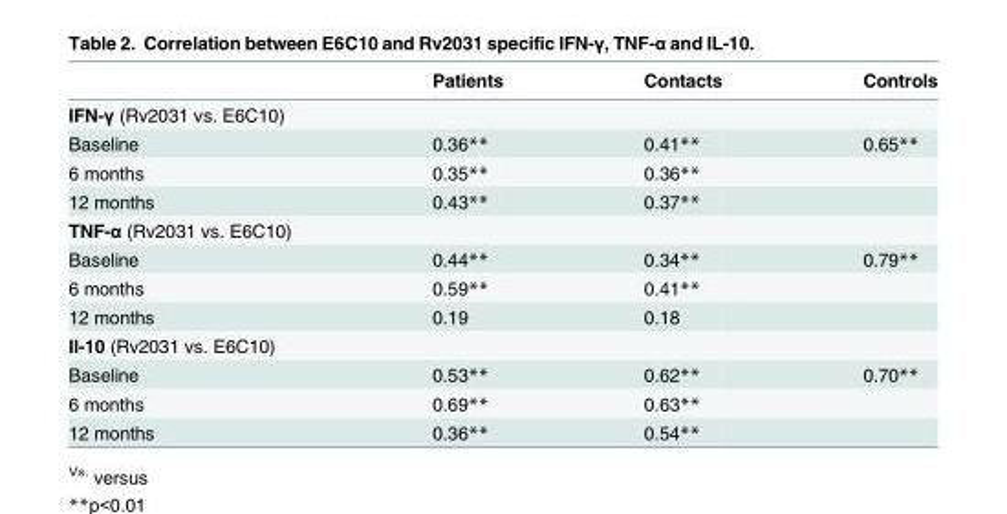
<table><thead><tr><td></td><td>Patients</td><td>Contacts</td><td>Controls</td></tr></thead><tbody><tr><td colspan="4">IFN-γ (Rv2031 vs. E6C10)</td></tr><tr><td>Baseline</td><td>0.36**</td><td>0.41**</td><td>0.65**</td></tr><tr><td>6 months</td><td>0.35**</td><td>0.36**</td><td></td></tr><tr><td>12 months</td><td>0.43**</td><td>0.37**</td><td></td></tr><tr><td colspan="4">TNF-α (Rv2031 vs. E6C10)</td></tr><tr><td>Baseline</td><td>0.44**</td><td>0.34**</td><td>0.79**</td></tr><tr><td>6 months</td><td>0.59**</td><td>0.41**</td><td></td></tr><tr><td>12 months</td><td>0.19</td><td>0.18</td><td></td></tr><tr><td colspan="4">Il-10 (Rv2031 vs. E6C10)</td></tr><tr><td>Baseline</td><td>0.53**</td><td>0.62**</td><td>0.70**</td></tr><tr><td>6 months</td><td>0.69**</td><td>0.63**</td><td></td></tr><tr><td>12 months</td><td>0.36**</td><td>0.54**</td><td></td></tr></tbody></table>